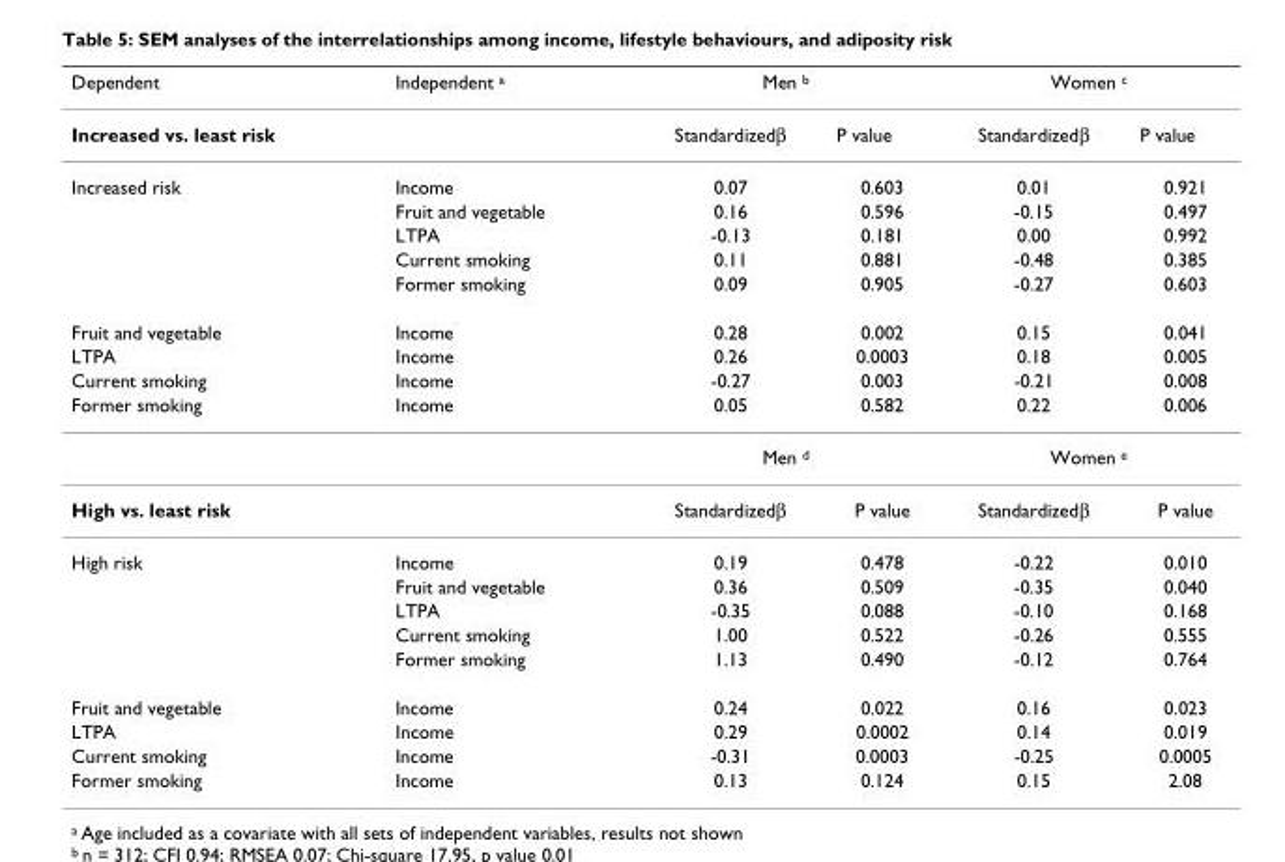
<table><thead><tr><td rowspan="2">Dependent Increased vs. least risk</td><td rowspan="2">Independent a</td><td colspan="2">Men b</td><td colspan="2">Women c</td></tr><tr><td>Standardizedβ</td><td>P value</td><td>Standardizedβ</td><td>P value</td></tr></thead><tbody><tr><td rowspan="5">Increased risk</td><td>Income</td><td>0.07</td><td>0.603</td><td>0.01</td><td>0.921</td></tr><tr><td>Fruit and vegetable</td><td>0.16</td><td>0.596</td><td>-0.15</td><td>0.497</td></tr><tr><td>LTPA</td><td>-0.13</td><td>0.181</td><td>0.00</td><td>0.992</td></tr><tr><td>Current smoking</td><td>0.11</td><td>0.881</td><td>-0.48</td><td>0.385</td></tr><tr><td>Former smoking</td><td>0.09</td><td>0.905</td><td>-0.27</td><td>0.603</td></tr><tr><td>Fruit and vegetable</td><td>Income</td><td>0.28</td><td>0.002</td><td>0.15</td><td>0.041</td></tr><tr><td>LTPA</td><td>Income</td><td>0.26</td><td>0.0003</td><td>0.18</td><td>0.005</td></tr><tr><td>Current smoking</td><td>Income</td><td>-0.27</td><td>0.003</td><td>-0.21</td><td>0.008</td></tr><tr><td rowspan="2">Former smoking</td><td>Income</td><td>0.05</td><td>0.582</td><td>0.22</td><td>0.006</td></tr><tr><td></td><td colspan="2">Men <sup>d</sup></td><td colspan="2">Women <sup>e</sup></td></tr><tr><td>High vs. least risk</td><td></td><td>Standardizedβ</td><td>P value</td><td>Standardizedβ</td><td>P value</td></tr><tr><td rowspan="5">High risk</td><td>Income</td><td>0.19</td><td>0.478</td><td>-0.22</td><td>0.010</td></tr><tr><td>Fruit and vegetable</td><td>0.36</td><td>0.509</td><td>-0.35</td><td>0.040</td></tr><tr><td>LTPA</td><td>-0.35</td><td>0.088</td><td>-0.10</td><td>0.168</td></tr><tr><td>Current smoking</td><td>1.00</td><td>0.522</td><td>-0.26</td><td>0.555</td></tr><tr><td>Former smoking</td><td>1.13</td><td>0.490</td><td>-0.12</td><td>0.764</td></tr><tr><td>Fruit and vegetable</td><td>Income</td><td>0.24</td><td>0.022</td><td>0.16</td><td>0.023</td></tr><tr><td>LTPA</td><td>Income</td><td>0.29</td><td>0.0002</td><td>0.14</td><td>0.019</td></tr><tr><td>Current smoking</td><td>Income</td><td>-0.31</td><td>0.0003</td><td>-0.25</td><td>0.0005</td></tr><tr><td>Former smoking</td><td>Income</td><td>0.13</td><td>0.124</td><td>0.15</td><td>2.08</td></tr></tbody></table>